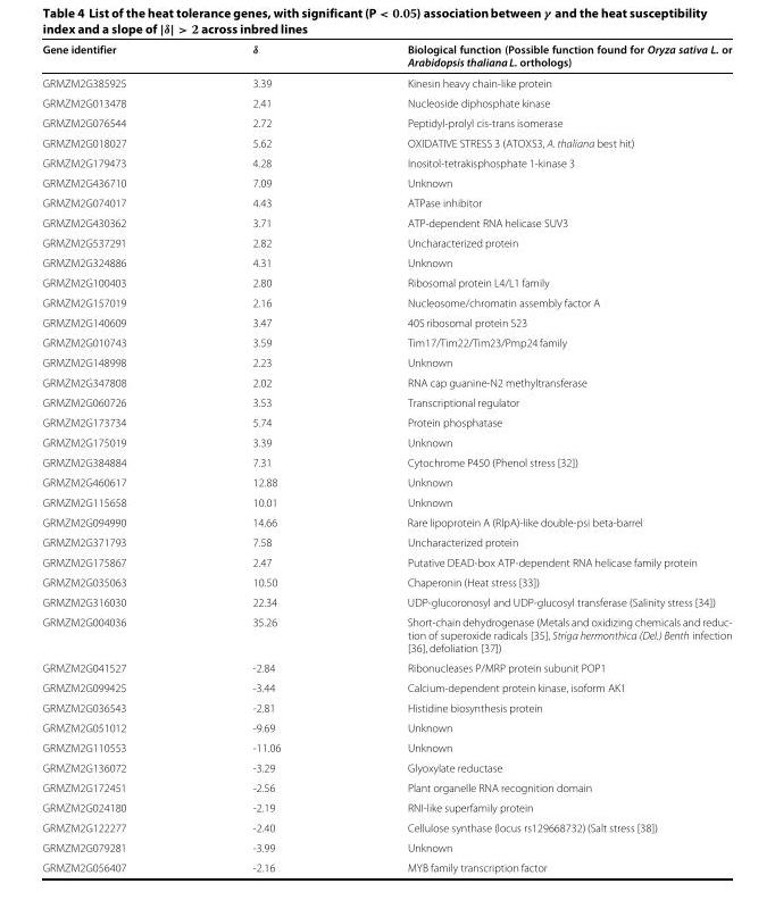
<table><thead><tr><td>Gene identifier</td><td>δ</td><td>Biological function (Possible function found for Oryza sativa L. or Arabidopsis thaliana L. orthologs)</td></tr></thead><tbody><tr><td>GRMZM2G385925</td><td>3.39</td><td>Kinesin heavy chain-like protein</td></tr><tr><td>GRMZM2G013478</td><td>2.41</td><td>Nucleoside diphosphate kinase</td></tr><tr><td>GRMZM2G076544</td><td>2.72</td><td>Peptidyl-prolyl cis-trans isomerase</td></tr><tr><td>GRMZM2G018027</td><td>5.62</td><td>OXIDATIVE STRESS 3 (ATOXS3, A. thaliana best hit)</td></tr><tr><td>GRMZM2G179473</td><td>4.28</td><td>Inositol-tetrakisphosphate 1-kinase 3</td></tr><tr><td>GRMZM2G436710</td><td>7.09</td><td>Unknown</td></tr><tr><td>GRMZM2G074017</td><td>4.43</td><td>ATPase inhibitor</td></tr><tr><td>GRMZM2G430362</td><td>3.71</td><td>ATP-dependent RNA helicase SUV3</td></tr><tr><td>GRMZM2G537291</td><td>2.82</td><td>Uncharacterized protein</td></tr><tr><td>GRMZM2G324886</td><td>4.31</td><td>Unknown</td></tr><tr><td>GRMZM2G100403</td><td>2.80</td><td>Ribosomal protein L4/L1 family</td></tr><tr><td>GRMZM2G157019</td><td>2.16</td><td>Nucleosome/chromatin assembly factor A</td></tr><tr><td>GRMZM2G140609</td><td>3.47</td><td>40S ribosomal protein S23</td></tr><tr><td>GRMZM2G010743</td><td>3.59</td><td>Tim17/Tim22/Tim23/Pmp24 family</td></tr><tr><td>GRMZM2G148998</td><td>2.23</td><td>Unknown</td></tr><tr><td>GRMZM2G347808</td><td>2.02</td><td>RNA cap guanine-N2 methyltransferase</td></tr><tr><td>GRMZM2G060726</td><td>3.53</td><td>Transcriptional regulator</td></tr><tr><td>GRMZM2G173734</td><td>5.74</td><td>Protein phosphatase</td></tr><tr><td>GRMZM2G175019</td><td>3.39</td><td>Unknown</td></tr><tr><td>GRMZM2G384884</td><td>7.31</td><td>Cytochrome P450 (Phenol stress [32])</td></tr><tr><td>GRMZM2G460617</td><td>12.88</td><td>Unknown</td></tr><tr><td>GRMZM2G115658</td><td>10.01</td><td>Unknown</td></tr><tr><td>GRMZM2G094990</td><td>14.66</td><td>Rare lipoprotein A (RlpA)-like double-psi beta-barrel</td></tr><tr><td>GRMZM2G371793</td><td>7.58</td><td>Uncharacterized protein</td></tr><tr><td>GRMZM2G175867</td><td>2.47</td><td>Putative DEAD-box ATP-dependent RNA helicase family protein</td></tr><tr><td>GRMZM2G035063</td><td>10.50</td><td>Chaperonin (Heat stress [33])</td></tr><tr><td>GRMZM2G316030</td><td>22.34</td><td>UDP-glucoronosyl and UDP-glucosyl transferase (Salinity stress [34])</td></tr><tr><td>GRMZM2G004036</td><td>35.26</td><td>Short-chain dehydrogenase (Metals and oxidizing chemicals and reduc- tion of superoxide radicals [35], Striga hermonthica (Del.) Benth infection [36], defoliation [37])</td></tr><tr><td>GRMZM2G041527</td><td>-2.84</td><td>Ribonucleases P/MRP protein subunit POP1</td></tr><tr><td>GRMZM2G099425</td><td>-3.44</td><td>Calcium-dependent protein kinase, isoform AK1</td></tr><tr><td>GRMZM2G036543</td><td>-2.81</td><td>Histidine biosynthesis protein</td></tr><tr><td>GRMZM2G051012</td><td>-9.69</td><td>Unknown</td></tr><tr><td>GRMZM2G110553</td><td>-11.06</td><td>Unknown</td></tr><tr><td>GRMZM2G136072</td><td>-3.29</td><td>Glyoxylate reductase</td></tr><tr><td>GRMZM2G172451</td><td>-2.56</td><td>Plant organelle RNA recognition domain</td></tr><tr><td>GRMZM2G024180</td><td>-2.19</td><td>RNI-like superfamily protein</td></tr><tr><td>GRMZM2G122277</td><td>-2.40</td><td>Cellulose synthase (locus rs129668732) (Salt stress [38])</td></tr><tr><td>GRMZM2G079281</td><td>-3.99</td><td>Unknown</td></tr><tr><td>GRMZM2G056407</td><td>-2.16</td><td>MYB family transcription factor</td></tr></tbody></table>